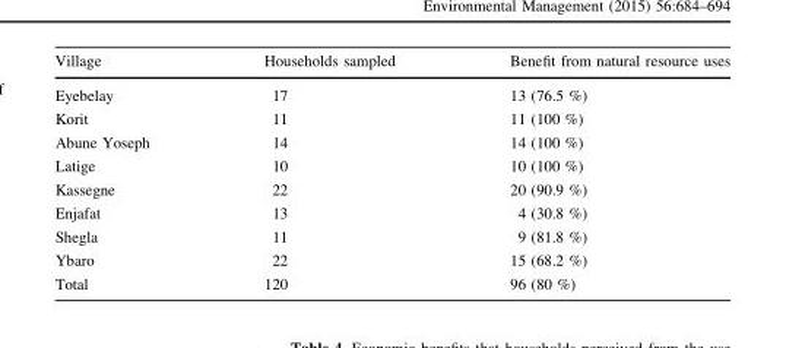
<table><thead><tr><td>Village</td><td>Households sampled</td><td>Benefit from natural resource uses</td></tr></thead><tbody><tr><td>Eyebelay</td><td>17</td><td>13 (76.5 %)</td></tr><tr><td>Korit</td><td>11</td><td>11 (100 %)</td></tr><tr><td>Abune Yoseph</td><td>14</td><td>14 (100 %)</td></tr><tr><td>Latige</td><td>10</td><td>10 (100 %)</td></tr><tr><td>Kassegne</td><td>22</td><td>20 (90.9 %)</td></tr><tr><td>Enjafat</td><td>13</td><td>4 (30.8 %)</td></tr><tr><td>Shegla</td><td>11</td><td>9 (81.8 %)</td></tr><tr><td>Ybaro</td><td>22</td><td>15 (68.2 %)</td></tr><tr><td>Total</td><td>120</td><td>96 (80 %)</td></tr></tbody></table>